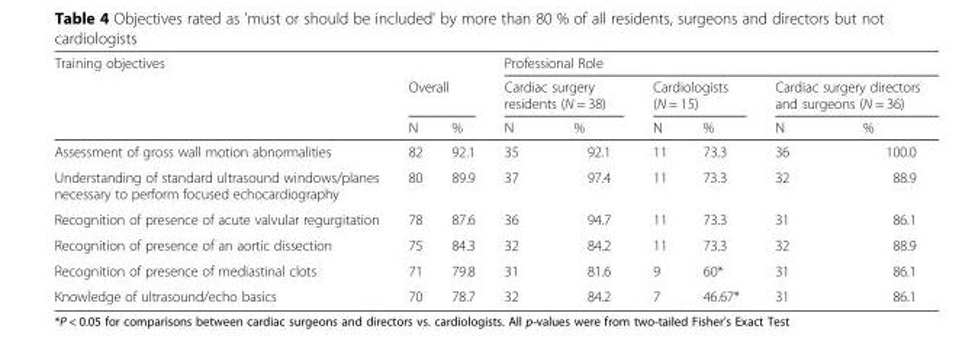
<table><thead><tr><td rowspan="3">Training objectives</td><td></td><td></td><td colspan="6">Professional Role</td></tr><tr><td colspan="2">Overall</td><td colspan="2">Cardiac surgery residents (N = 38)</td><td colspan="2">Cardiologists (N = 15)</td><td colspan="2">Cardiac surgery directors and surgeons (N = 36)</td></tr><tr><td>N</td><td>%</td><td>N</td><td>%</td><td>N</td><td>%</td><td>N</td><td>%</td></tr></thead><tbody><tr><td>Assessment of gross wall motion abnormalities</td><td>82</td><td>92.1</td><td>35</td><td>92.1</td><td>11</td><td>73.3</td><td>36</td><td>100.0</td></tr><tr><td>Understanding of standard ultrasound windows/planes necessary to perform focused echocardiography</td><td>80</td><td>89.9</td><td>37</td><td>97.4</td><td>11</td><td>73.3</td><td>32</td><td>88.9</td></tr><tr><td>Recognition of presence of acute valvular regurgitation</td><td>78</td><td>87.6</td><td>36</td><td>94.7</td><td>11</td><td>73.3</td><td>31</td><td>86.1</td></tr><tr><td>Recognition of presence of an aortic dissection</td><td>75</td><td>84.3</td><td>32</td><td>84.2</td><td>11</td><td>73.3</td><td>32</td><td>88.9</td></tr><tr><td>Recognition of presence of mediastinal clots</td><td>71</td><td>79.8</td><td>31</td><td>81.6</td><td>9</td><td>60*</td><td>31</td><td>86.1</td></tr><tr><td>Knowledge of ultrasound/echo basics</td><td>70</td><td>78.7</td><td>32</td><td>84.2</td><td>7</td><td>46.67*</td><td>31</td><td>86.1</td></tr></tbody></table>